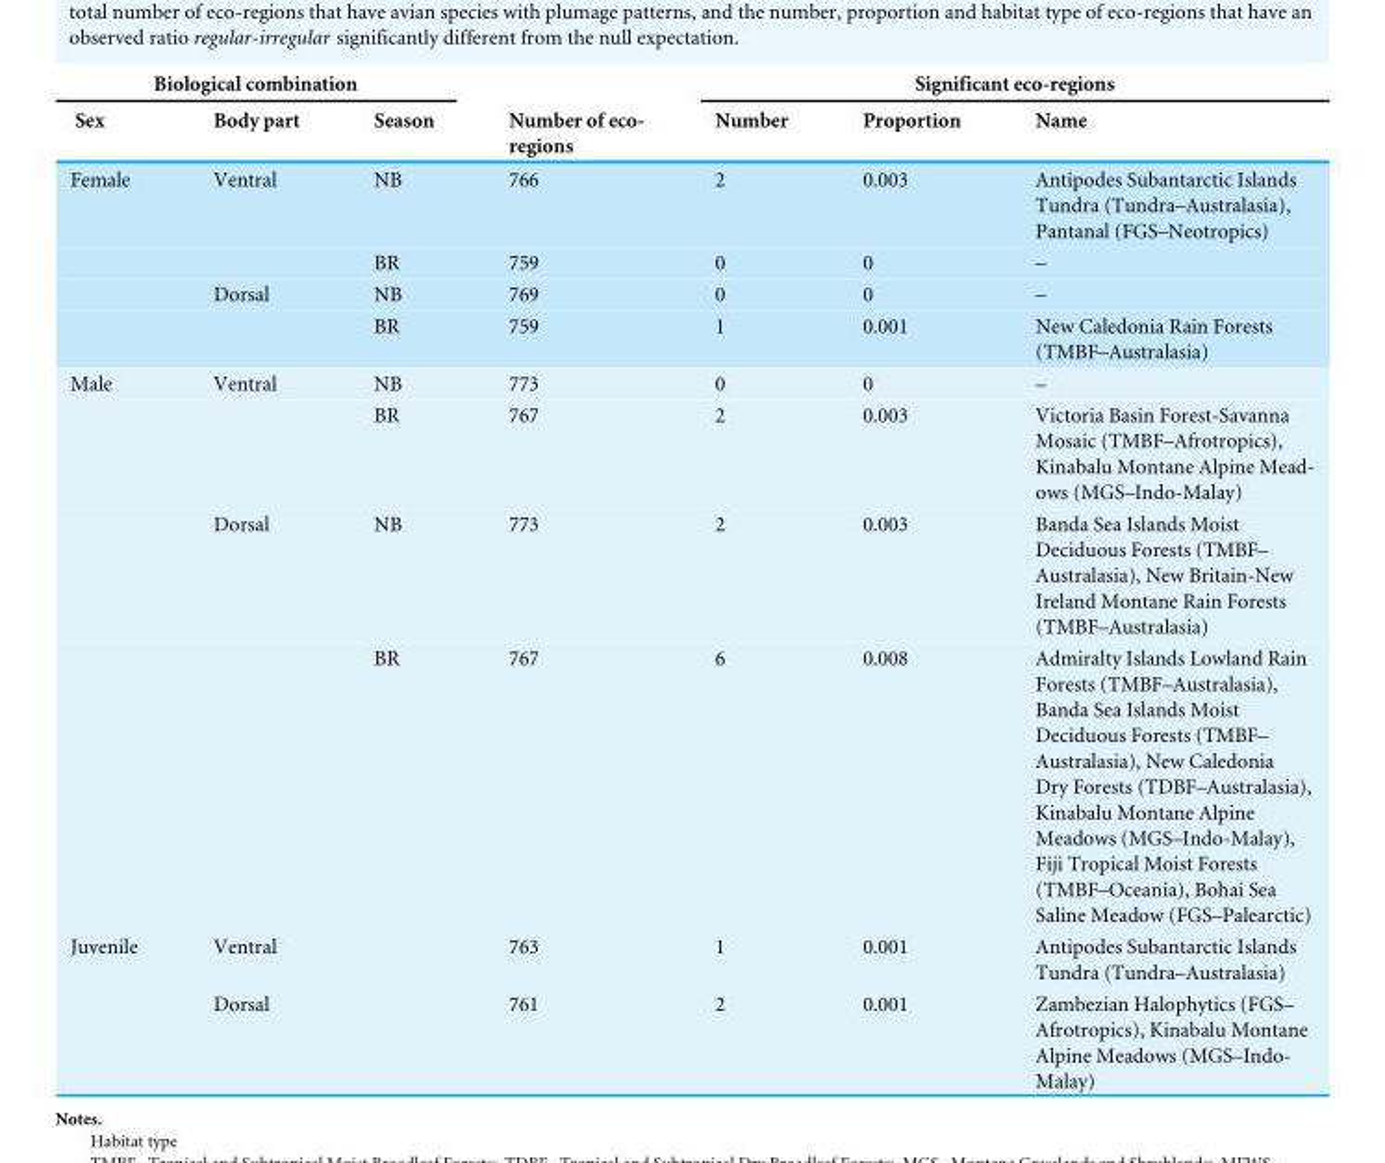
<table><thead><tr><td colspan="3">Biological combination</td><td rowspan="2">Number of eco- regions</td><td colspan="3">Significant eco-regions</td></tr><tr><td>Sex</td><td>Body part</td><td>Season</td><td>Number</td><td>Proportion</td><td>Name</td></tr></thead><tbody><tr><td rowspan="4">Female</td><td>Ventral</td><td>NB</td><td>766</td><td>2</td><td>0.003</td><td>Antipodes Subantarctic Islands Tundra (Tundra–Australasia), Pantanal (FGS–Neotropics)</td></tr><tr><td></td><td>BR</td><td>759</td><td>0</td><td>0</td><td>–</td></tr><tr><td>Dorsal</td><td>NB</td><td>769</td><td>0</td><td>0</td><td>–</td></tr><tr><td></td><td>BR</td><td>759</td><td>1</td><td>0.001</td><td>New Caledonia Rain Forests (TMBF–Australasia)</td></tr><tr><td rowspan="4">Male</td><td>Ventral</td><td>NB</td><td>773</td><td>0</td><td>0</td><td>–</td></tr><tr><td></td><td>BR</td><td>767</td><td>2</td><td>0.003</td><td>Victoria Basin Forest-Savanna Mosaic (TMBF–Afrotropics), Kinabalu Montane Alpine Mead- ows (MGS–Indo-Malay)</td></tr><tr><td>Dorsal</td><td>NB</td><td>773</td><td>2</td><td>0.003</td><td>Banda Sea Islands Moist Deciduous Forests (TMBF– Australasia), New Britain-New Ireland Montane Rain Forests (TMBF–Australasia)</td></tr><tr><td></td><td>BR</td><td>767</td><td>6</td><td>0.008</td><td>Admiralty Islands Lowland Rain Forests (TMBF–Australasia), Banda Sea Islands Moist Deciduous Forests (TMBF– Australasia), New Caledonia Dry Forests (TDBF–Australasia), Kinabalu Montane Alpine Meadows (MGS–Indo-Malay), Fiji Tropical Moist Forests (TMBF–Oceania), Bohai Sea Saline Meadow (FGS–Palearctic)</td></tr><tr><td rowspan="2">Juvenile</td><td>Ventral</td><td></td><td>763</td><td>1</td><td>0.001</td><td>Antipodes Subantarctic Islands Tundra (Tundra–Australasia)</td></tr><tr><td>Dorsal</td><td></td><td>761</td><td>2</td><td>0.001</td><td>Zambezian Halophytics (FGS– Afrotropics), Kinabalu Montane Alpine Meadows (MGS–Indo- Malay)</td></tr></tbody></table>